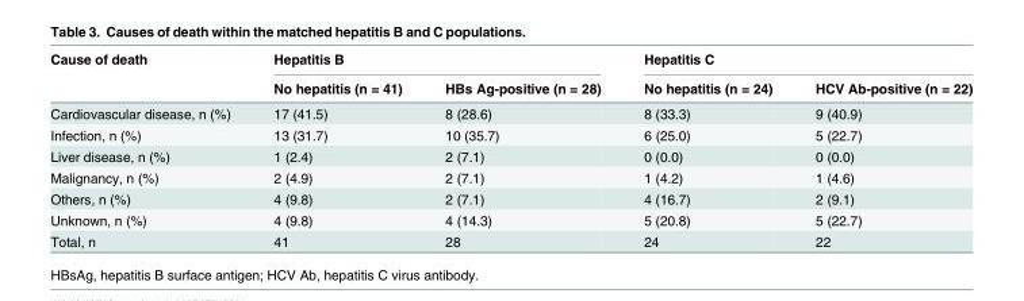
<table><thead><tr><td rowspan="2">Cause of death</td><td colspan="2">Hepatitis B</td><td colspan="2">Hepatitis C</td></tr><tr><td>No hepatitis (n = 41)</td><td>HBs Ag-positive (n = 28)</td><td>No hepatitis (n = 24)</td><td>HCV Ab-positive (n = 22)</td></tr></thead><tbody><tr><td>Cardiovascular disease, n (%)</td><td>17 (41.5)</td><td>8 (28.6)</td><td>8 (33.3)</td><td>9 (40.9)</td></tr><tr><td>Infection, n (%)</td><td>13 (31.7)</td><td>10 (35.7)</td><td>6 (25.0)</td><td>5 (22.7)</td></tr><tr><td>Liver disease, n (%)</td><td>1 (2.4)</td><td>2 (7.1)</td><td>0 (0.0)</td><td>0 (0.0)</td></tr><tr><td>Malignancy, n (%)</td><td>2 (4.9)</td><td>2 (7.1)</td><td>1 (4.2)</td><td>1 (4.6)</td></tr><tr><td>Others, n (%)</td><td>4 (9.8)</td><td>2 (7.1)</td><td>4 (16.7)</td><td>2 (9.1)</td></tr><tr><td>Unknown, n (%)</td><td>4 (9.8)</td><td>4 (14.3)</td><td>5 (20.8)</td><td>5 (22.7)</td></tr><tr><td>Total, n</td><td>41</td><td>28</td><td>24</td><td>22</td></tr></tbody></table>